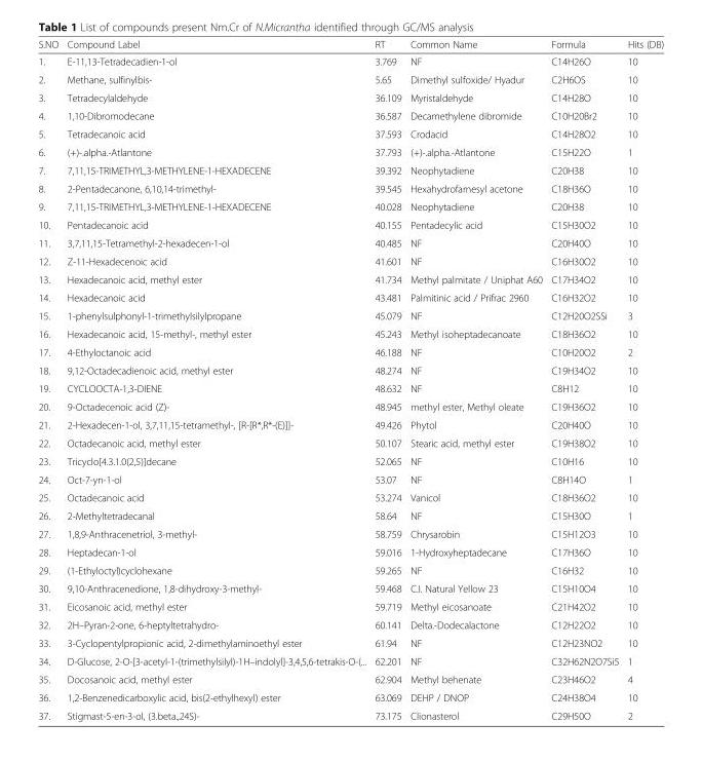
<table><thead><tr><td>S.NO</td><td>Compound Label</td><td>RT</td><td>Common Name</td><td>Formula</td><td>Hits (DB)</td></tr></thead><tbody><tr><td>1.</td><td>E-11,13-Tetradecadien-1-ol</td><td>3.769</td><td>NF</td><td>C14H26O</td><td>10</td></tr><tr><td>2.</td><td>Methane, sulfinylbis-</td><td>5.65</td><td>Dimethyl sulfoxide/ Hyadur</td><td>C2H6OS</td><td>10</td></tr><tr><td>3.</td><td>Tetradecylaldehyde</td><td>36.109</td><td>Myristaldehyde</td><td>C14H28O</td><td>10</td></tr><tr><td>4.</td><td>1,10-Dibromodecane</td><td>36.587</td><td>Decamethylene dibromide</td><td>C10H20Br2</td><td>10</td></tr><tr><td>5.</td><td>Tetradecanoic acid</td><td>37.593</td><td>Crodacid</td><td>C14H28O2</td><td>10</td></tr><tr><td>6.</td><td>(+)-.alpha.-Atlantone</td><td>37.793</td><td>(+)-.alpha.-Atlantone</td><td>C15H22O</td><td>1</td></tr><tr><td>7.</td><td>7,11,15-TRIMETHYL,3-METHYLENE-1-HEXADECENE</td><td>39.392</td><td>Neophytadiene</td><td>C20H38</td><td>10</td></tr><tr><td>8.</td><td>2-Pentadecanone, 6,10,14-trimethyl-</td><td>39.545</td><td>Hexahydrofarnesyl acetone</td><td>C18H36O</td><td>10</td></tr><tr><td>9.</td><td>7,11,15-TRIMETHYL,3-METHYLENE-1-HEXADECENE</td><td>40.028</td><td>Neophytadiene</td><td>C20H38</td><td>10</td></tr><tr><td>10.</td><td>Pentadecanoic acid</td><td>40.155</td><td>Pentadecylic acid</td><td>C15H30O2</td><td>10</td></tr><tr><td>11.</td><td>3,7,11,15-Tetramethyl-2-hexadecen-1-ol</td><td>40.485</td><td>NF</td><td>C20H40O</td><td>10</td></tr><tr><td>12.</td><td>Z-11-Hexadecenoic acid</td><td>41.601</td><td>NF</td><td>C16H30O2</td><td>10</td></tr><tr><td>13.</td><td>Hexadecanoic acid, methyl ester</td><td>41.734</td><td>Methyl palmitate / Uniphat A60</td><td>C17H34O2</td><td>10</td></tr><tr><td>14.</td><td>Hexadecanoic acid</td><td>43.481</td><td>Palmitinic acid / Prifrac 2960</td><td>C16H32O2</td><td>10</td></tr><tr><td>15.</td><td>1-phenylsulphonyl-1-trimethylsilylpropane</td><td>45.079</td><td>NF</td><td>C12H20O2SSi</td><td>3</td></tr><tr><td>16.</td><td>Hexadecanoic acid, 15-methyl-, methyl ester</td><td>45.243</td><td>Methyl isoheptadecanoate</td><td>C18H36O2</td><td>10</td></tr><tr><td>17.</td><td>4-Ethyloctanoic acid</td><td>46.188</td><td>NF</td><td>C10H20O2</td><td>2</td></tr><tr><td>18.</td><td>9,12-Octadecadienoic acid, methyl ester</td><td>48.274</td><td>NF</td><td>C19H34O2</td><td>10</td></tr><tr><td>19.</td><td>CYCLOOCTA-1,3-DIENE</td><td>48.632</td><td>NF</td><td>C8H12</td><td>10</td></tr><tr><td>20.</td><td>9-Octadecenoic acid (Z)-</td><td>48.945</td><td>methyl ester, Methyl oleate</td><td>C19H36O2</td><td>10</td></tr><tr><td>21.</td><td>2-Hexadecen-1-ol, 3,7,11,15-tetramethyl-, [R-[R*,R*-(E)]]-</td><td>49.426</td><td>Phytol</td><td>C20H40O</td><td>10</td></tr><tr><td>22.</td><td>Octadecanoic acid, methyl ester</td><td>50.107</td><td>Stearic acid, methyl ester</td><td>C19H38O2</td><td>10</td></tr><tr><td>23.</td><td>Tricyclo[4.3.1.0(2,5)]decane</td><td>52.065</td><td>NF</td><td>C10H16</td><td>10</td></tr><tr><td>24.</td><td>Oct-7-yn-1-ol</td><td>53.07</td><td>NF</td><td>C8H14O</td><td>1</td></tr><tr><td>25.</td><td>Octadecanoic acid</td><td>53.274</td><td>Vanicol</td><td>C18H36O2</td><td>10</td></tr><tr><td>26.</td><td>2-Methyltetradecanal</td><td>58.64</td><td>NF</td><td>C15H30O</td><td>1</td></tr><tr><td>27.</td><td>1,8,9-Anthracenetriol, 3-methyl-</td><td>58.759</td><td>Chrysarobin</td><td>C15H12O3</td><td>10</td></tr><tr><td>28.</td><td>Heptadecan-1-ol</td><td>59.016</td><td>1-Hydroxyheptadecane</td><td>C17H36O</td><td>10</td></tr><tr><td>29.</td><td>(1-Ethyloctyl)cyclohexane</td><td>59.265</td><td>NF</td><td>C16H32</td><td>10</td></tr><tr><td>30.</td><td>9,10-Anthracenedione, 1,8-dihydroxy-3-methyl-</td><td>59.468</td><td>C.I. Natural Yellow 23</td><td>C15H10O4</td><td>10</td></tr><tr><td>31.</td><td>Eicosanoic acid, methyl ester</td><td>59.719</td><td>Methyl eicosanoate</td><td>C21H42O2</td><td>10</td></tr><tr><td>32.</td><td>2H–Pyran-2-one, 6-heptyltetrahydro-</td><td>60.141</td><td>Delta.-Dodecalactone</td><td>C12H22O2</td><td>10</td></tr><tr><td>33.</td><td>3-Cyclopentylpropionic acid, 2-dimethylaminoethyl ester</td><td>61.94</td><td>NF</td><td>C12H23NO2</td><td>10</td></tr><tr><td>34.</td><td>D-Glucose, 2-O-[3-acetyl-1-(trimethylsilyl)-1H–indolyl]-3,4,5,6-tetrakis-O-(...</td><td>62.201</td><td>NF</td><td>C32H62N2O7Si5</td><td>1</td></tr><tr><td>35.</td><td>Docosanoic acid, methyl ester</td><td>62.904</td><td>Methyl behenate</td><td>C23H46O2</td><td>4</td></tr><tr><td>36.</td><td>1,2-Benzenedicarboxylic acid, bis(2-ethylhexyl) ester</td><td>63.069</td><td>DEHP / DNOP</td><td>C24H38O4</td><td>10</td></tr><tr><td>37.</td><td>Stigmast-5-en-3-ol, (3.beta.,24S)-</td><td>73.175</td><td>Clionasterol</td><td>C29H50O</td><td>2</td></tr></tbody></table>